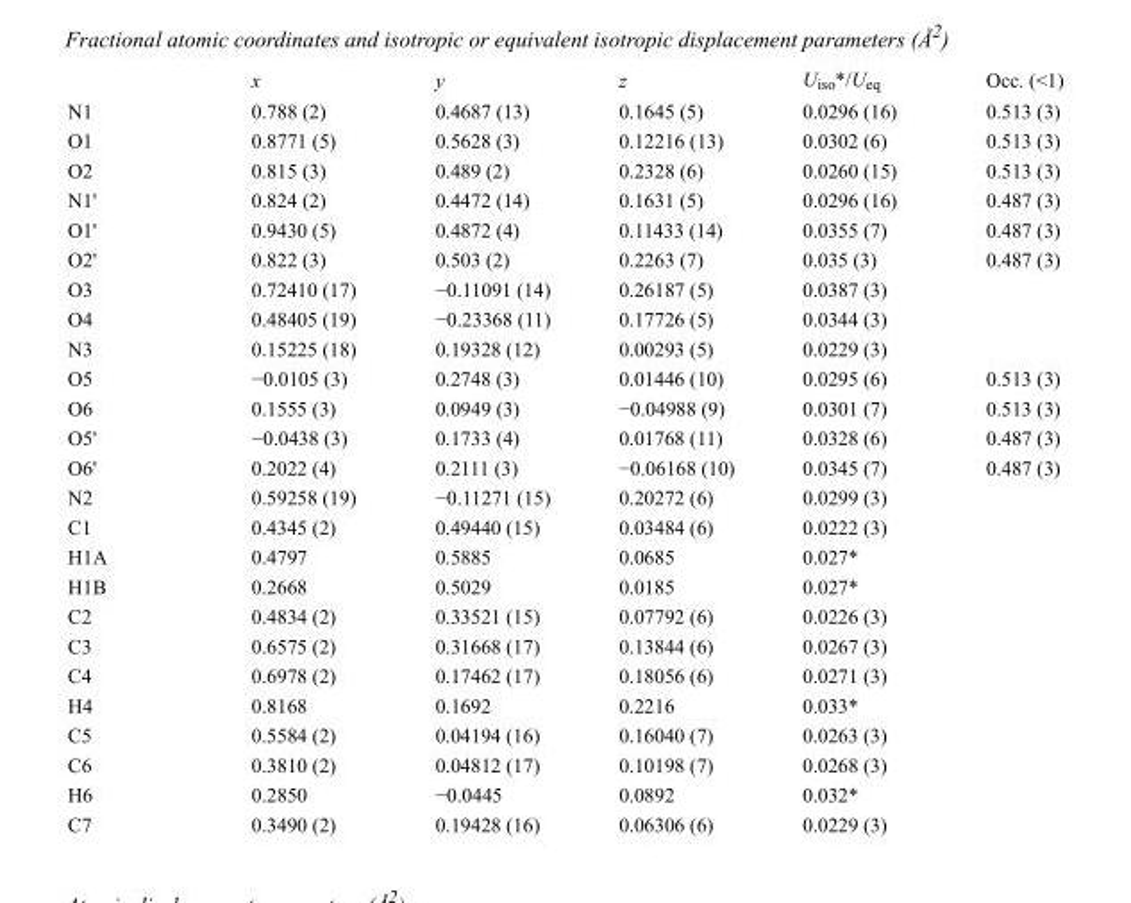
<table><thead><tr><td></td><td>x</td><td>y</td><td>z</td><td>U<sub>iso</sub>*/U<sub>eq</sub></td><td>Occ. (&lt;1)</td></tr></thead><tbody><tr><td>N1</td><td>0.788 (2)</td><td>0.4687 (13)</td><td>0.1645 (5)</td><td>0.0296 (16)</td><td>0.513 (3)</td></tr><tr><td>O1</td><td>0.8771 (5)</td><td>0.5628 (3)</td><td>0.12216 (13)</td><td>0.0302 (6)</td><td>0.513 (3)</td></tr><tr><td>O2</td><td>0.815 (3)</td><td>0.489 (2)</td><td>0.2328 (6)</td><td>0.0260 (15)</td><td>0.513 (3)</td></tr><tr><td>N1&#x27;</td><td>0.824 (2)</td><td>0.4472 (14)</td><td>0.1631 (5)</td><td>0.0296 (16)</td><td>0.487 (3)</td></tr><tr><td>O1&#x27;</td><td>0.9430 (5)</td><td>0.4872 (4)</td><td>0.11433 (14)</td><td>0.0355 (7)</td><td>0.487 (3)</td></tr><tr><td>O2&#x27;</td><td>0.822 (3)</td><td>0.503 (2)</td><td>0.2263 (7)</td><td>0.035 (3)</td><td>0.487 (3)</td></tr><tr><td>O3</td><td>0.72410 (17)</td><td>−0.11091 (14)</td><td>0.26187 (5)</td><td>0.0387 (3)</td><td></td></tr><tr><td>O4</td><td>0.48405 (19)</td><td>−0.23368 (11)</td><td>0.17726 (5)</td><td>0.0344 (3)</td><td></td></tr><tr><td>N3</td><td>0.15225 (18)</td><td>0.19328 (12)</td><td>0.00293 (5)</td><td>0.0229 (3)</td><td></td></tr><tr><td>O5</td><td>−0.0105 (3)</td><td>0.2748 (3)</td><td>0.01446 (10)</td><td>0.0295 (6)</td><td>0.513 (3)</td></tr><tr><td>O6</td><td>0.1555 (3)</td><td>0.0949 (3)</td><td>−0.04988 (9)</td><td>0.0301 (7)</td><td>0.513 (3)</td></tr><tr><td>O5&#x27;</td><td>−0.0438 (3)</td><td>0.1733 (4)</td><td>0.01768 (11)</td><td>0.0328 (6)</td><td>0.487 (3)</td></tr><tr><td>O6&#x27;</td><td>0.2022 (4)</td><td>0.2111 (3)</td><td>−0.06168 (10)</td><td>0.0345 (7)</td><td>0.487 (3)</td></tr><tr><td>N2</td><td>0.59258 (19)</td><td>−0.11271 (15)</td><td>0.20272 (6)</td><td>0.0299 (3)</td><td></td></tr><tr><td>C1</td><td>0.4345 (2)</td><td>0.49440 (15)</td><td>0.03484 (6)</td><td>0.0222 (3)</td><td></td></tr><tr><td>H1A</td><td>0.4797</td><td>0.5885</td><td>0.0685</td><td>0.027*</td><td></td></tr><tr><td>H1B</td><td>0.2668</td><td>0.5029</td><td>0.0185</td><td>0.027*</td><td></td></tr><tr><td>C2</td><td>0.4834 (2)</td><td>0.33521 (15)</td><td>0.07792 (6)</td><td>0.0226 (3)</td><td></td></tr><tr><td>C3</td><td>0.6575 (2)</td><td>0.31668 (17)</td><td>0.13844 (6)</td><td>0.0267 (3)</td><td></td></tr><tr><td>C4</td><td>0.6978 (2)</td><td>0.17462 (17)</td><td>0.18056 (6)</td><td>0.0271 (3)</td><td></td></tr><tr><td>H4</td><td>0.8168</td><td>0.1692</td><td>0.2216</td><td>0.033*</td><td></td></tr><tr><td>C5</td><td>0.5584 (2)</td><td>0.04194 (16)</td><td>0.16040 (7)</td><td>0.0263 (3)</td><td></td></tr><tr><td>C6</td><td>0.3810 (2)</td><td>0.04812 (17)</td><td>0.10198 (7)</td><td>0.0268 (3)</td><td></td></tr><tr><td>H6</td><td>0.2850</td><td>−0.0445</td><td>0.0892</td><td>0.032*</td><td></td></tr><tr><td>C7</td><td>0.3490 (2)</td><td>0.19428 (16)</td><td>0.06306 (6)</td><td>0.0229 (3)</td><td></td></tr></tbody></table>